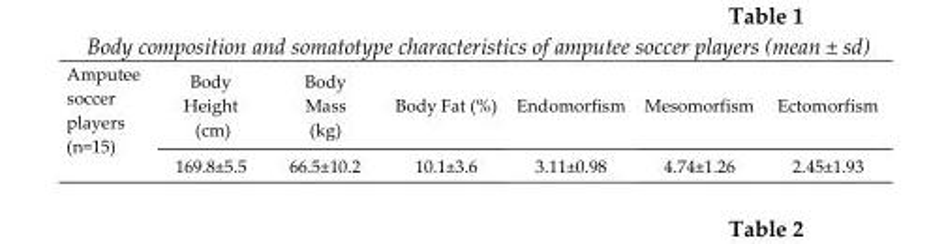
<table><thead><tr><td>Amputee soccer players (n=15)</td><td>Body Height (cm)</td><td>Body Mass (kg)</td><td>Body Fat (%)</td><td>Endomorfism</td><td>Mesomorfism</td><td>Ectomorfism</td></tr></thead><tbody><tr><td></td><td>169.8±5.5</td><td>66.5±10.2</td><td>10.1±3.6</td><td>3.11±0.98</td><td>4.74±1.26</td><td>2.45±1.93</td></tr></tbody></table>